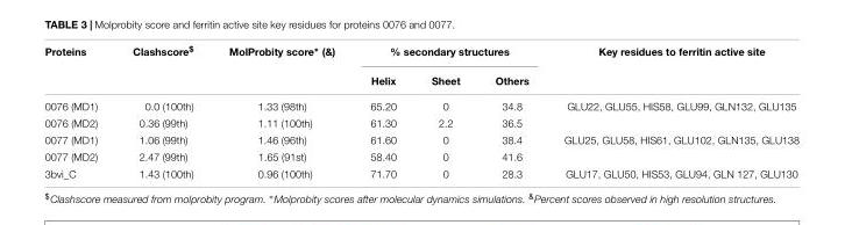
<table><thead><tr><td rowspan="2">Proteins</td><td rowspan="2">Clashscore<sup>$</sup></td><td rowspan="2">MolProbity score∗ (&amp;)</td><td colspan="3">% secondary structures</td><td rowspan="2">Key residues to ferritin active site</td></tr><tr><td>Helix</td><td>Sheet</td><td>Others</td></tr></thead><tbody><tr><td>0076 (MD1)</td><td>0.0 (100th)</td><td>1.33 (98th)</td><td>65.20</td><td>0</td><td>34.8</td><td>GLU22, GLU55, HIS58, GLU99, GLN132, GLU135</td></tr><tr><td>0076 (MD2)</td><td>0.36 (99th)</td><td>1.11 (100th)</td><td>61.30</td><td>2.2</td><td>36.5</td><td></td></tr><tr><td>0077 (MD1)</td><td>1.06 (99th)</td><td>1.46 (96th)</td><td>61.60</td><td>0</td><td>38.4</td><td>GLU25, GLU58, HIS61, GLU102, GLN135, GLU138</td></tr><tr><td>0077 (MD2)</td><td>2.47 (99th)</td><td>1.65 (91st)</td><td>58.40</td><td>0</td><td>41.6</td><td></td></tr><tr><td>3bvi_C</td><td>1.43 (100th)</td><td>0.96 (100th)</td><td>71.70</td><td>0</td><td>28.3</td><td>GLU17, GLU50, HIS53, GLU94, GLN 127, GLU130</td></tr></tbody></table>